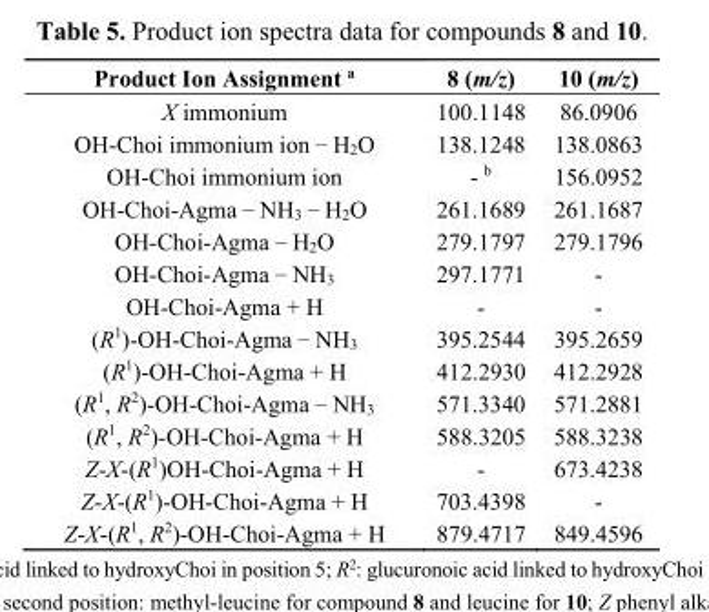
<table><thead><tr><td>Product Ion Assignment <sup>a</sup></td><td>8 (m/z)</td><td>10 (m/z)</td></tr></thead><tbody><tr><td>X immonium</td><td>100.1148</td><td>86.0906</td></tr><tr><td>OH-Choi immonium ion − H<sub>2</sub>O</td><td>138.1248</td><td>138.0863</td></tr><tr><td>OH-Choi immonium ion</td><td>- <sup>b</sup></td><td>156.0952</td></tr><tr><td>OH-Choi-Agma − NH<sub>3</sub> − H<sub>2</sub>O</td><td>261.1689</td><td>261.1687</td></tr><tr><td>OH-Choi-Agma − H<sub>2</sub>O</td><td>279.1797</td><td>279.1796</td></tr><tr><td>OH-Choi-Agma − NH<sub>3</sub></td><td>297.1771</td><td>-</td></tr><tr><td>OH-Choi-Agma + H</td><td>-</td><td>-</td></tr><tr><td>(R<sup>1</sup>)-OH-Choi-Agma − NH<sub>3</sub></td><td>395.2544</td><td>395.2659</td></tr><tr><td>(R<sup>1</sup>)-OH-Choi-Agma + H</td><td>412.2930</td><td>412.2928</td></tr><tr><td>(R<sup>1</sup>, R<sup>2</sup>)-OH-Choi-Agma − NH<sub>3</sub></td><td>571.3340</td><td>571.2881</td></tr><tr><td>(R<sup>1</sup>, R<sup>2</sup>)-OH-Choi-Agma + H</td><td>588.3205</td><td>588.3238</td></tr><tr><td>Z-X-(R<sup>1</sup>)OH-Choi-Agma + H</td><td>-</td><td>673.4238</td></tr><tr><td>Z-X-(R<sup>1</sup>)-OH-Choi-Agma + H</td><td>703.4398</td><td>-</td></tr><tr><td>Z-X-(R<sup>1</sup>, R<sup>2</sup>)-OH-Choi-Agma + H</td><td>879.4717</td><td>849.4596</td></tr></tbody></table>